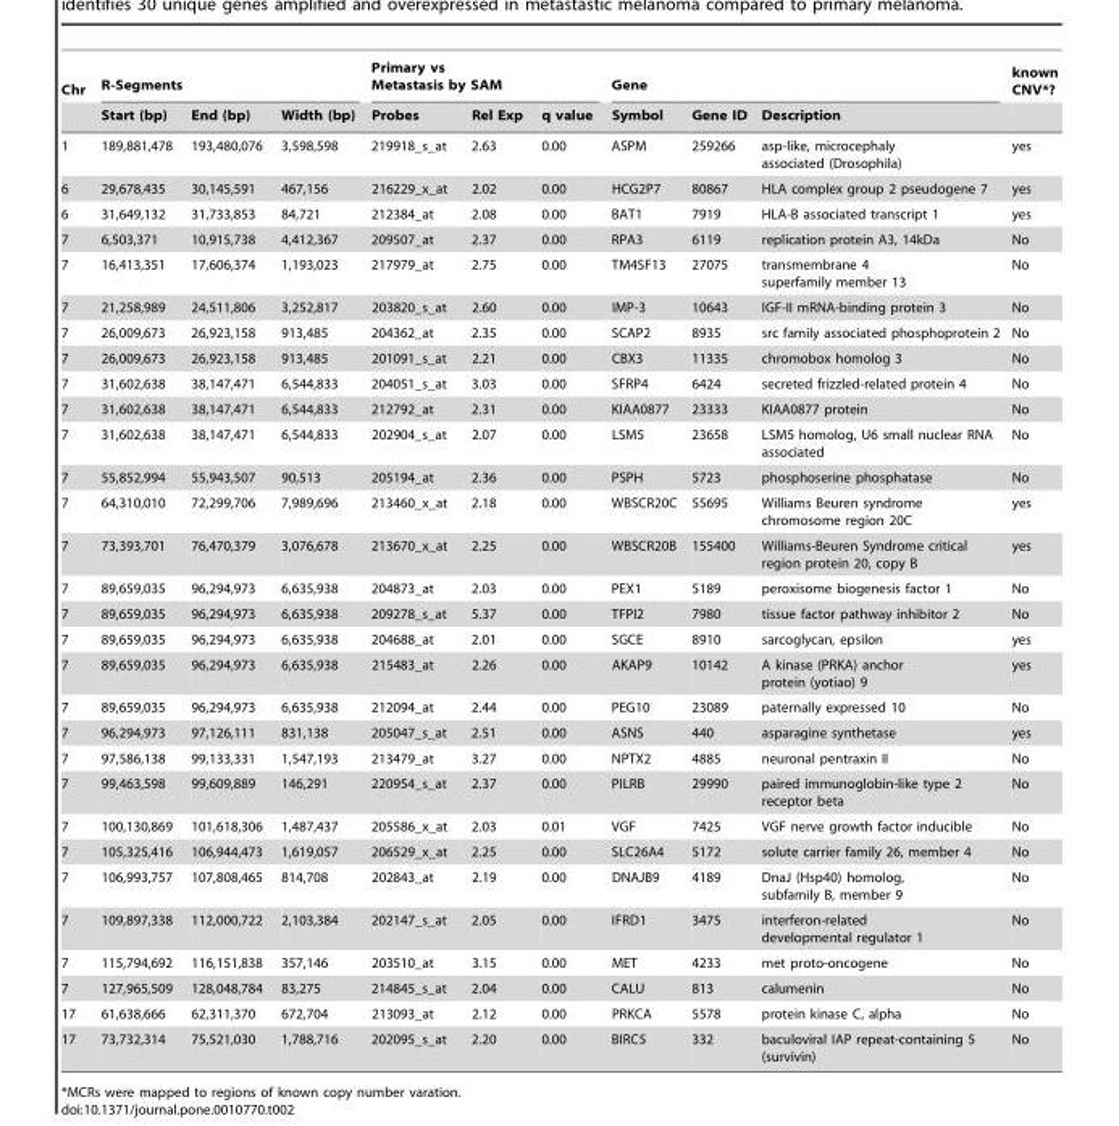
<table><thead><tr><td rowspan="2">Chr</td><td colspan="3">R-Segments</td><td colspan="3">Primary vs Metastasis by SAM</td><td colspan="3">Gene</td><td rowspan="2">known CNV*?</td></tr><tr><td>Start (bp)</td><td>End (bp)</td><td>Width (bp)</td><td>Probes</td><td>Rel Exp</td><td>q value</td><td>Symbol</td><td>Gene ID</td><td>Description</td></tr></thead><tbody><tr><td>1</td><td>189,881,478</td><td>193,480,076</td><td>3,598,598</td><td>219918_s_at</td><td>2.63</td><td>0.00</td><td>ASPM</td><td>259266</td><td>asp-like, microcephaly associated (Drosophila)</td><td>yes</td></tr><tr><td>6</td><td>29,678,435</td><td>30,145,591</td><td>467,156</td><td>216229_x_at</td><td>2.02</td><td>0.00</td><td>HCG2P7</td><td>80867</td><td>HLA complex group 2 pseudogene 7</td><td>yes</td></tr><tr><td>6</td><td>31,649,132</td><td>31,733,853</td><td>84,721</td><td>212384_at</td><td>2.08</td><td>0.00</td><td>BAT1</td><td>7919</td><td>HLA-B associated transcript 1</td><td>yes</td></tr><tr><td>7</td><td>6,503,371</td><td>10,915,738</td><td>4,412,367</td><td>209507_at</td><td>2.37</td><td>0.00</td><td>RPA3</td><td>6119</td><td>replication protein A3, 14kDa</td><td>No</td></tr><tr><td>7</td><td>16,413,351</td><td>17,606,374</td><td>1,193,023</td><td>217979_at</td><td>2.75</td><td>0.00</td><td>TM4SF13</td><td>27075</td><td>transmembrane 4 superfamily member 13</td><td>No</td></tr><tr><td>7</td><td>21,258,989</td><td>24,511,806</td><td>3,252,817</td><td>203820_s_at</td><td>2.60</td><td>0.00</td><td>IMP-3</td><td>10643</td><td>IGF-II mRNA-binding protein 3</td><td>No</td></tr><tr><td>7</td><td>26,009,673</td><td>26,923,158</td><td>913,485</td><td>204362_at</td><td>2.35</td><td>0.00</td><td>SCAP2</td><td>8935</td><td>src family associated phosphoprotein 2</td><td>No</td></tr><tr><td>7</td><td>26,009,673</td><td>26,923,158</td><td>913,485</td><td>201091_s_at</td><td>2.21</td><td>0.00</td><td>CBX3</td><td>11335</td><td>chromobox homolog 3</td><td>No</td></tr><tr><td>7</td><td>31,602,638</td><td>38,147,471</td><td>6,544,833</td><td>204051_s_at</td><td>3.03</td><td>0.00</td><td>SFRP4</td><td>6424</td><td>secreted frizzled-related protein 4</td><td>No</td></tr><tr><td>7</td><td>31,602,638</td><td>38,147,471</td><td>6,544,833</td><td>212792_at</td><td>2.31</td><td>0.00</td><td>KIAA0877</td><td>23333</td><td>KIAA0877 protein</td><td>No</td></tr><tr><td>7</td><td>31,602,638</td><td>38,147,471</td><td>6,544,833</td><td>202904_s_at</td><td>2.07</td><td>0.00</td><td>LSM5</td><td>23658</td><td>LSM5 homolog, U6 small nuclear RNA associated</td><td>No</td></tr><tr><td>7</td><td>55,852,994</td><td>55,943,507</td><td>90,513</td><td>205194_at</td><td>2.36</td><td>0.00</td><td>PSPH</td><td>5723</td><td>phosphoserine phosphatase</td><td>No</td></tr><tr><td>7</td><td>64,310,010</td><td>72,299,706</td><td>7,989,696</td><td>213460_x_at</td><td>2.18</td><td>0.00</td><td>WBSCR20C</td><td>55695</td><td>Williams Beuren syndrome chromosome region 20C</td><td>yes</td></tr><tr><td>7</td><td>73,393,701</td><td>76,470,379</td><td>3,076,678</td><td>213670_x_at</td><td>2.25</td><td>0.00</td><td>WBSCR20B</td><td>155400</td><td>Williams-Beuren Syndrome critical region protein 20, copy B</td><td>yes</td></tr><tr><td>7</td><td>89,659,035</td><td>96,294,973</td><td>6,635,938</td><td>204873_at</td><td>2.03</td><td>0.00</td><td>PEX1</td><td>5189</td><td>peroxisome biogenesis factor 1</td><td>No</td></tr><tr><td>7</td><td>89,659,035</td><td>96,294,973</td><td>6,635,938</td><td>209278_s_at</td><td>5.37</td><td>0.00</td><td>TFPI2</td><td>7980</td><td>tissue factor pathway inhibitor 2</td><td>No</td></tr><tr><td>7</td><td>89,659,035</td><td>96,294,973</td><td>6,635,938</td><td>204688_at</td><td>2.01</td><td>0.00</td><td>SGCE</td><td>8910</td><td>sarcoglycan, epsilon</td><td>yes</td></tr><tr><td>7</td><td>89,659,035</td><td>96,294,973</td><td>6,635,938</td><td>215483_at</td><td>2.26</td><td>0.00</td><td>AKAP9</td><td>10142</td><td>A kinase (PRKA) anchor protein (yotiao) 9</td><td>yes</td></tr><tr><td>7</td><td>89,659,035</td><td>96,294,973</td><td>6,635,938</td><td>212094_at</td><td>2.44</td><td>0.00</td><td>PEG10</td><td>23089</td><td>paternally expressed 10</td><td>No</td></tr><tr><td>7</td><td>96,294,973</td><td>97,126,111</td><td>831,138</td><td>205047_s_at</td><td>2.51</td><td>0.00</td><td>ASNS</td><td>440</td><td>asparagine synthetase</td><td>yes</td></tr><tr><td>7</td><td>97,586,138</td><td>99,133,331</td><td>1,547,193</td><td>213479_at</td><td>3.27</td><td>0.00</td><td>NPTX2</td><td>4885</td><td>neuronal pentraxin II</td><td>No</td></tr><tr><td>7</td><td>99,463,598</td><td>99,609,889</td><td>146,291</td><td>220954_s_at</td><td>2.37</td><td>0.00</td><td>PILRB</td><td>29990</td><td>paired immunoglobin-like type 2 receptor beta</td><td>No</td></tr><tr><td>7</td><td>100,130,869</td><td>101,618,306</td><td>1,487,437</td><td>205586_x_at</td><td>2.03</td><td>0.01</td><td>VGF</td><td>7425</td><td>VGF nerve growth factor inducible</td><td>No</td></tr><tr><td>7</td><td>105,325,416</td><td>106,944,473</td><td>1,619,057</td><td>206529_x_at</td><td>2.25</td><td>0.00</td><td>SLC26A4</td><td>5172</td><td>solute carrier family 26, member 4</td><td>No</td></tr><tr><td>7</td><td>106,993,757</td><td>107,808,465</td><td>814,708</td><td>202843_at</td><td>2.19</td><td>0.00</td><td>DNAJB9</td><td>4189</td><td>DnaJ (Hsp40) homolog, subfamily B, member 9</td><td>No</td></tr><tr><td>7</td><td>109,897,338</td><td>112,000,722</td><td>2,103,384</td><td>202147_s_at</td><td>2.05</td><td>0.00</td><td>IFRD1</td><td>3475</td><td>interferon-related developmental regulator 1</td><td>No</td></tr><tr><td>7</td><td>115,794,692</td><td>116,151,838</td><td>357,146</td><td>203510_at</td><td>3.15</td><td>0.00</td><td>MET</td><td>4233</td><td>met proto-oncogene</td><td>No</td></tr><tr><td>7</td><td>127,965,509</td><td>128,048,784</td><td>83,275</td><td>214845_s_at</td><td>2.04</td><td>0.00</td><td>CALU</td><td>813</td><td>calumenin</td><td>No</td></tr><tr><td>17</td><td>61,638,666</td><td>62,311,370</td><td>672,704</td><td>213093_at</td><td>2.12</td><td>0.00</td><td>PRKCA</td><td>5578</td><td>protein kinase C, alpha</td><td>No</td></tr><tr><td>17</td><td>73,732,314</td><td>75,521,030</td><td>1,788,716</td><td>202095_s_at</td><td>2.20</td><td>0.00</td><td>BIRC5</td><td>332</td><td>baculoviral IAP repeat-containing 5 (survivin)</td><td>No</td></tr></tbody></table>